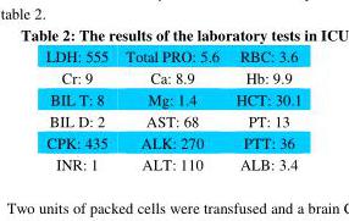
<table><thead><tr><td>LDH: 555</td><td>Total PRO: 5.6</td><td>RBC: 3.6</td></tr></thead><tbody><tr><td>Cr: 9</td><td>Ca: 8.9</td><td>Hb: 9.9</td></tr><tr><td>BIL T: 8</td><td>Mg: 1.4</td><td>HCT: 30.1</td></tr><tr><td>BIL D: 2</td><td>AST: 68</td><td>PT: 13</td></tr><tr><td>CPK: 435</td><td>ALK: 270</td><td>PTT: 36</td></tr><tr><td>INR: 1</td><td>ALT: 110</td><td>ALB: 3.4</td></tr></tbody></table>